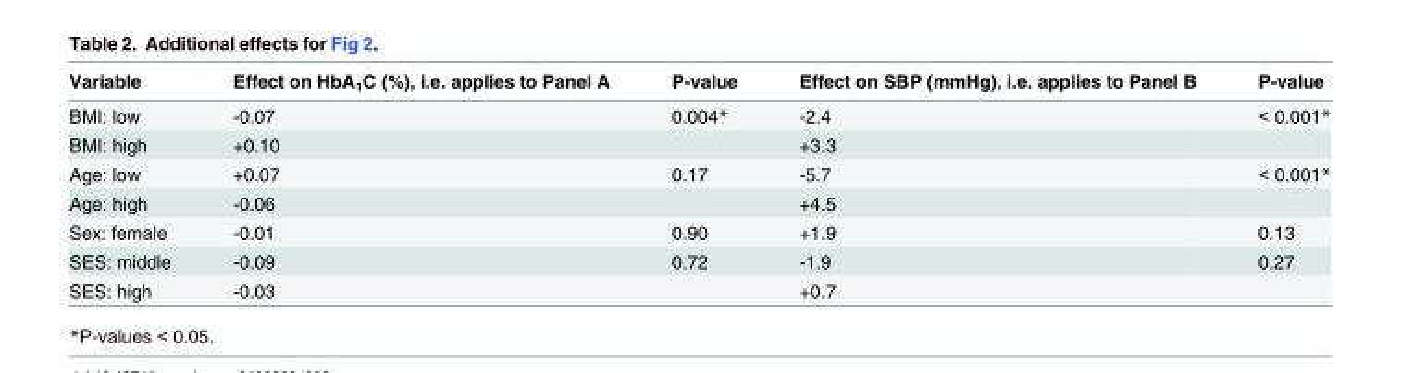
<table><thead><tr><td>Variable</td><td>Effect on HbA<sub>1</sub>C (%), i.e. applies to Panel A</td><td>P-value</td><td>Effect on SBP (mmHg), i.e. applies to Panel B</td><td>P-value</td></tr></thead><tbody><tr><td>BMI: low</td><td>-0.07</td><td>0.004*</td><td>-2.4</td><td>&lt; 0.001*</td></tr><tr><td>BMI: high</td><td>+0.10</td><td></td><td>+3.3</td><td></td></tr><tr><td>Age: low</td><td>+0.07</td><td>0.17</td><td>-5.7</td><td>&lt; 0.001*</td></tr><tr><td>Age: high</td><td>-0.06</td><td></td><td>+4.5</td><td></td></tr><tr><td>Sex: female</td><td>-0.01</td><td>0.90</td><td>+1.9</td><td>0.13</td></tr><tr><td>SES: middle</td><td>-0.09</td><td>0.72</td><td>-1.9</td><td>0.27</td></tr><tr><td>SES: high</td><td>-0.03</td><td></td><td>+0.7</td><td></td></tr></tbody></table>